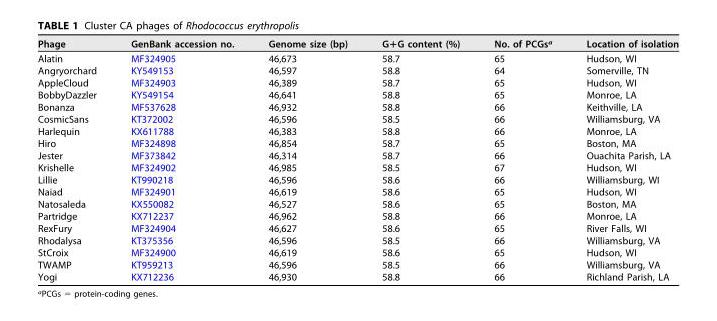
<table><thead><tr><td>Phage</td><td>GenBank accession no.</td><td>Genome size (bp)</td><td>G+G content (%)</td><td>No. of PCGs<sup>a</sup></td><td>Location of isolation</td></tr></thead><tbody><tr><td>Alatin</td><td>MF324905</td><td>46,673</td><td>58.7</td><td>65</td><td>Hudson, WI</td></tr><tr><td>Angryorchard</td><td>KY549153</td><td>46,597</td><td>58.8</td><td>64</td><td>Somerville, TN</td></tr><tr><td>AppleCloud</td><td>MF324903</td><td>46,389</td><td>58.7</td><td>65</td><td>Hudson, WI</td></tr><tr><td>BobbyDazzler</td><td>KY549154</td><td>46,641</td><td>58.8</td><td>65</td><td>Monroe, LA</td></tr><tr><td>Bonanza</td><td>MF537628</td><td>46,932</td><td>58.8</td><td>66</td><td>Keithville, LA</td></tr><tr><td>CosmicSans</td><td>KT372002</td><td>46,596</td><td>58.5</td><td>66</td><td>Williamsburg, VA</td></tr><tr><td>Harlequin</td><td>KX611788</td><td>46,383</td><td>58.8</td><td>66</td><td>Monroe, LA</td></tr><tr><td>Hiro</td><td>MF324898</td><td>46,854</td><td>58.7</td><td>65</td><td>Boston, MA</td></tr><tr><td>Jester</td><td>MF373842</td><td>46,314</td><td>58.7</td><td>66</td><td>Ouachita Parish, LA</td></tr><tr><td>Krishelle</td><td>MF324902</td><td>46,985</td><td>58.5</td><td>67</td><td>Hudson, WI</td></tr><tr><td>Lillie</td><td>KT990218</td><td>46,596</td><td>58.6</td><td>66</td><td>Williamsburg, WI</td></tr><tr><td>Naiad</td><td>MF324901</td><td>46,619</td><td>58.6</td><td>65</td><td>Hudson, WI</td></tr><tr><td>Natosaleda</td><td>KX550082</td><td>46,527</td><td>58.6</td><td>65</td><td>Boston, MA</td></tr><tr><td>Partridge</td><td>KX712237</td><td>46,962</td><td>58.8</td><td>66</td><td>Monroe, LA</td></tr><tr><td>RexFury</td><td>MF324904</td><td>46,627</td><td>58.6</td><td>65</td><td>River Falls, WI</td></tr><tr><td>Rhodalysa</td><td>KT375356</td><td>46,596</td><td>58.5</td><td>66</td><td>Williamsburg, VA</td></tr><tr><td>StCroix</td><td>MF324900</td><td>46,619</td><td>58.6</td><td>65</td><td>Hudson, WI</td></tr><tr><td>TWAMP</td><td>KT959213</td><td>46,596</td><td>58.5</td><td>66</td><td>Williamsburg, VA</td></tr><tr><td>Yogi</td><td>KX712236</td><td>46,930</td><td>58.8</td><td>66</td><td>Richland Parish, LA</td></tr></tbody></table>